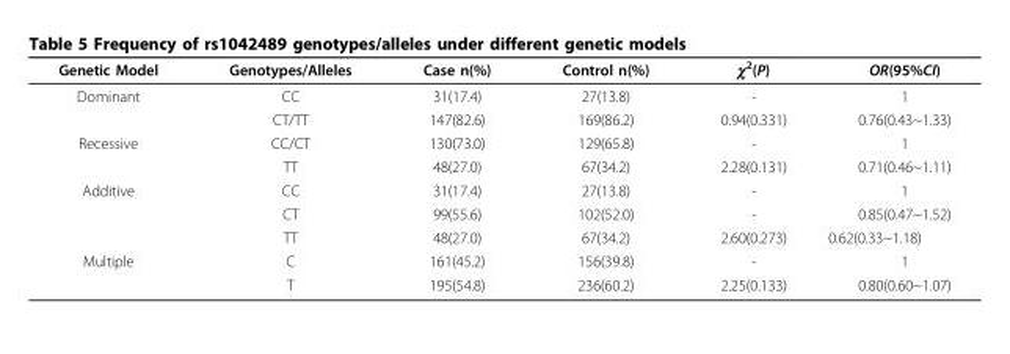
<table><thead><tr><td>Genetic Model</td><td>Genotypes/Alleles</td><td>Case n(%)</td><td>Control n(%)</td><td>χ<sup>2</sup>(P)</td><td>OR(95%CI)</td></tr></thead><tbody><tr><td rowspan="2">Dominant</td><td>CC</td><td>31(17.4)</td><td>27(13.8)</td><td>-</td><td>1</td></tr><tr><td>CT/TT</td><td>147(82.6)</td><td>169(86.2)</td><td>0.94(0.331)</td><td>0.76(0.43~1.33)</td></tr><tr><td rowspan="2">Recessive</td><td>CC/CT</td><td>130(73.0)</td><td>129(65.8)</td><td>-</td><td>1</td></tr><tr><td>TT</td><td>48(27.0)</td><td>67(34.2)</td><td>2.28(0.131)</td><td>0.71(0.46~1.11)</td></tr><tr><td rowspan="3">Additive</td><td>CC</td><td>31(17.4)</td><td>27(13.8)</td><td>-</td><td>1</td></tr><tr><td>CT</td><td>99(55.6)</td><td>102(52.0)</td><td>-</td><td>0.85(0.47~1.52)</td></tr><tr><td>TT</td><td>48(27.0)</td><td>67(34.2)</td><td>2.60(0.273)</td><td>0.62(0.33~1.18)</td></tr><tr><td rowspan="2">Multiple</td><td>C</td><td>161(45.2)</td><td>156(39.8)</td><td>-</td><td>1</td></tr><tr><td>T</td><td>195(54.8)</td><td>236(60.2)</td><td>2.25(0.133)</td><td>0.80(0.60~1.07)</td></tr></tbody></table>